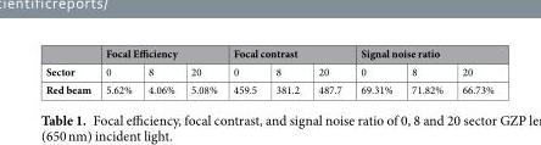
<table><thead><tr><td rowspan="2">Sector</td><td colspan="3">Focal Efficiency</td><td colspan="3">Focal contrast</td><td colspan="3">Signal noise ratio</td></tr><tr><td>0</td><td>8</td><td>20</td><td>0</td><td>8</td><td>20</td><td>0</td><td>8</td><td>20</td></tr></thead><tbody><tr><td>Red beam</td><td>5.62%</td><td>4.06%</td><td>5.08%</td><td>459.5</td><td>381.2</td><td>487.7</td><td>69.31%</td><td>71.82%</td><td>66.73%</td></tr></tbody></table>